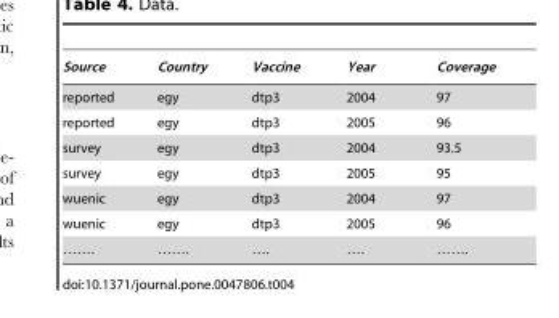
<table><thead><tr><td>Source</td><td>Country</td><td>Vaccine</td><td>Year</td><td>Coverage</td></tr></thead><tbody><tr><td>reported</td><td>egy</td><td>dtp3</td><td>2004</td><td>97</td></tr><tr><td>reported</td><td>egy</td><td>dtp3</td><td>2005</td><td>96</td></tr><tr><td>survey</td><td>egy</td><td>dtp3</td><td>2004</td><td>93.5</td></tr><tr><td>survey</td><td>egy</td><td>dtp3</td><td>2005</td><td>95</td></tr><tr><td>wuenic</td><td>egy</td><td>dtp3</td><td>2004</td><td>97</td></tr><tr><td>wuenic</td><td>egy</td><td>dtp3</td><td>2005</td><td>96</td></tr><tr><td>…….</td><td>…….</td><td>….</td><td>….</td><td>…….</td></tr></tbody></table>